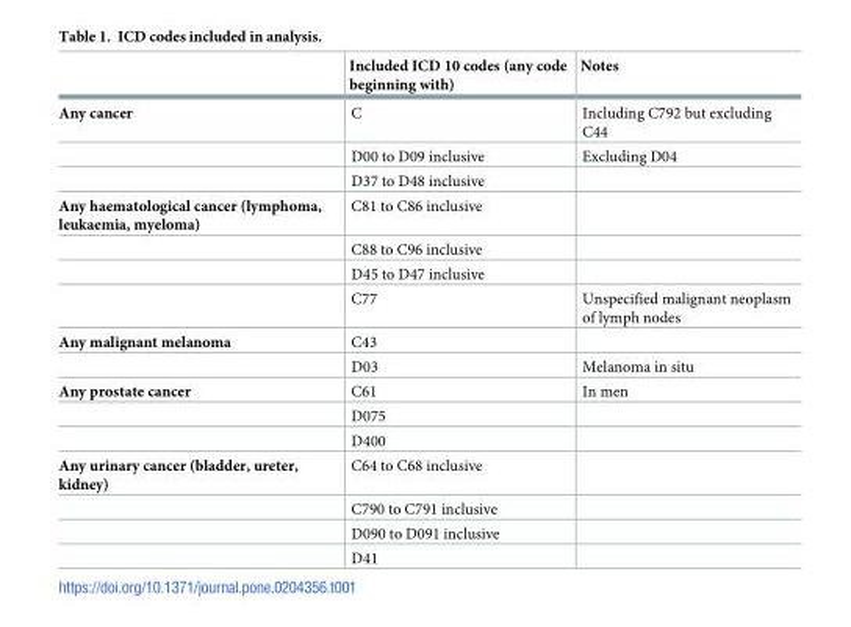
<table><thead><tr><td></td><td>Included ICD 10 codes (any code beginning with)</td><td>Notes</td></tr></thead><tbody><tr><td rowspan="3">Any cancer</td><td>C</td><td>Including C792 but excluding C44</td></tr><tr><td>D00 to D09 inclusive</td><td>Excluding D04</td></tr><tr><td>D37 to D48 inclusive</td><td></td></tr><tr><td rowspan="4">Any haematological cancer (lymphoma, leukaemia, myeloma)</td><td>C81 to C86 inclusive</td><td></td></tr><tr><td>C88 to C96 inclusive</td><td></td></tr><tr><td>D45 to D47 inclusive</td><td></td></tr><tr><td>C77</td><td>Unspecified malignant neoplasm of lymph nodes</td></tr><tr><td rowspan="2">Any malignant melanoma</td><td>C43</td><td></td></tr><tr><td>D03</td><td>Melanoma in situ</td></tr><tr><td rowspan="3">Any prostate cancer</td><td>C61</td><td>In men</td></tr><tr><td>D075</td><td></td></tr><tr><td>D400</td><td></td></tr><tr><td rowspan="4">Any urinary cancer (bladder, ureter, kidney)</td><td>C64 to C68 inclusive</td><td></td></tr><tr><td>C790 to C791 inclusive</td><td></td></tr><tr><td>D090 to D091 inclusive</td><td></td></tr><tr><td>D41</td><td></td></tr></tbody></table>